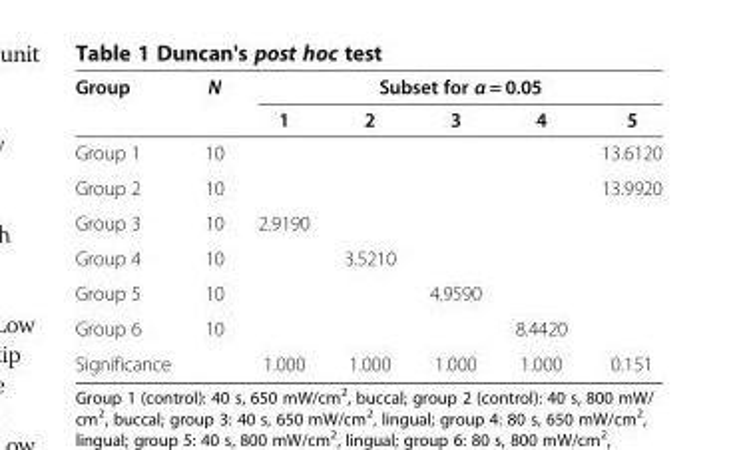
<table><thead><tr><td rowspan="2">Group</td><td rowspan="2">N</td><td colspan="5">Subset for α = 0.05</td></tr><tr><td>1</td><td>2</td><td>3</td><td>4</td><td>5</td></tr></thead><tbody><tr><td>Group 1</td><td>10</td><td></td><td></td><td></td><td></td><td>13.6120</td></tr><tr><td>Group 2</td><td>10</td><td></td><td></td><td></td><td></td><td>13.9920</td></tr><tr><td>Group 3</td><td>10</td><td>2.9190</td><td></td><td></td><td></td><td></td></tr><tr><td>Group 4</td><td>10</td><td></td><td>3.5210</td><td></td><td></td><td></td></tr><tr><td>Group 5</td><td>10</td><td></td><td></td><td>4.9590</td><td></td><td></td></tr><tr><td>Group 6</td><td>10</td><td></td><td></td><td></td><td>8.4420</td><td></td></tr><tr><td>Significance</td><td></td><td>1.000</td><td>1.000</td><td>1.000</td><td>1.000</td><td>0.151</td></tr></tbody></table>